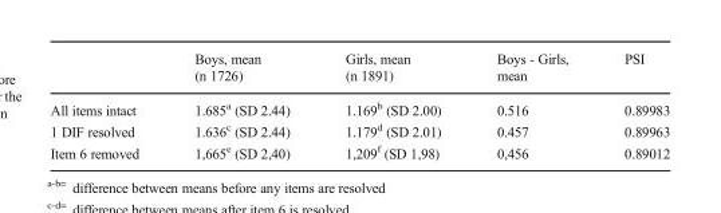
<table><thead><tr><td></td><td>Boys, mean (n 1726)</td><td>Girls, mean (n 1891)</td><td>Boys - Girls, mean</td><td>PSI</td></tr></thead><tbody><tr><td>All items intact</td><td>1.685<sup>a</sup> (SD 2.44)</td><td>1.169<sup>b</sup> (SD 2.00)</td><td>0.516</td><td>0.89983</td></tr><tr><td>1 DIF resolved</td><td>1.636<sup>c</sup> (SD 2.44)</td><td>1.179<sup>d</sup> (SD 2.01)</td><td>0.457</td><td>0.89963</td></tr><tr><td>Item 6 removed</td><td>1,665<sup>e</sup> (SD 2,40)</td><td>1,209<sup>f</sup> (SD 1,98)</td><td>0,456</td><td>0.89012</td></tr></tbody></table>